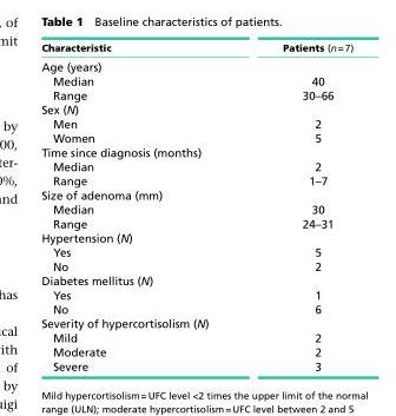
<table><thead><tr><td>Characteristic</td><td>Patients (n = 7)</td></tr></thead><tbody><tr><td colspan="2">Age (years)</td></tr><tr><td>Median</td><td>40</td></tr><tr><td>Range</td><td>30–66</td></tr><tr><td colspan="2">Sex (N)</td></tr><tr><td>Men</td><td>2</td></tr><tr><td>Women</td><td>5</td></tr><tr><td colspan="2">Time since diagnosis (months)</td></tr><tr><td>Median</td><td>2</td></tr><tr><td>Range</td><td>1–7</td></tr><tr><td colspan="2">Size of adenoma (mm)</td></tr><tr><td>Median</td><td>30</td></tr><tr><td>Range</td><td>24–31</td></tr><tr><td colspan="2">Hypertension (N)</td></tr><tr><td>Yes</td><td>5</td></tr><tr><td>No</td><td>2</td></tr><tr><td colspan="2">Diabetes mellitus (N)</td></tr><tr><td>Yes</td><td>1</td></tr><tr><td>No</td><td>6</td></tr><tr><td colspan="2">Severity of hypercortisolism (N)</td></tr><tr><td>Mild</td><td>2</td></tr><tr><td>Moderate</td><td>2</td></tr><tr><td>Severe</td><td>3</td></tr></tbody></table>